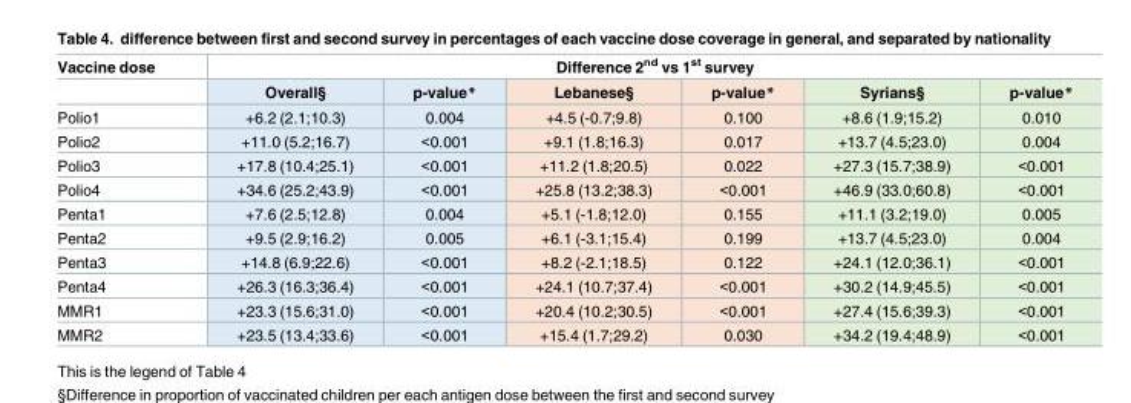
<table><thead><tr><td rowspan="2">Vaccine dose</td><td colspan="6">Difference 2<sup>nd</sup> vs 1<sup>st</sup> survey</td></tr><tr><td>Overall§</td><td>p-value*</td><td>Lebanese§</td><td>p-value*</td><td>Syrians§</td><td>p-value*</td></tr></thead><tbody><tr><td>Polio1</td><td>+6.2 (2.1;10.3)</td><td>0.004</td><td>+4.5 (-0.7;9.8)</td><td>0.100</td><td>+8.6 (1.9;15.2)</td><td>0.010</td></tr><tr><td>Polio2</td><td>+11.0 (5.2;16.7)</td><td>&lt;0.001</td><td>+9.1 (1.8;16.3)</td><td>0.017</td><td>+13.7 (4.5;23.0)</td><td>0.004</td></tr><tr><td>Polio3</td><td>+17.8 (10.4;25.1)</td><td>&lt;0.001</td><td>+11.2 (1.8;20.5)</td><td>0.022</td><td>+27.3 (15.7;38.9)</td><td>&lt;0.001</td></tr><tr><td>Polio4</td><td>+34.6 (25.2;43.9)</td><td>&lt;0.001</td><td>+25.8 (13.2;38.3)</td><td>&lt;0.001</td><td>+46.9 (33.0;60.8)</td><td>&lt;0.001</td></tr><tr><td>Penta1</td><td>+7.6 (2.5;12.8)</td><td>0.004</td><td>+5.1 (-1.8;12.0)</td><td>0.155</td><td>+11.1 (3.2;19.0)</td><td>0.005</td></tr><tr><td>Penta2</td><td>+9.5 (2.9;16.2)</td><td>0.005</td><td>+6.1 (-3.1;15.4)</td><td>0.199</td><td>+13.7 (4.5;23.0)</td><td>0.004</td></tr><tr><td>Penta3</td><td>+14.8 (6.9;22.6)</td><td>&lt;0.001</td><td>+8.2 (-2.1;18.5)</td><td>0.122</td><td>+24.1 (12.0;36.1)</td><td>&lt;0.001</td></tr><tr><td>Penta4</td><td>+26.3 (16.3;36.4)</td><td>&lt;0.001</td><td>+24.1 (10.7;37.4)</td><td>&lt;0.001</td><td>+30.2 (14.9;45.5)</td><td>&lt;0.001</td></tr><tr><td>MMR1</td><td>+23.3 (15.6;31.0)</td><td>&lt;0.001</td><td>+20.4 (10.2;30.5)</td><td>&lt;0.001</td><td>+27.4 (15.6;39.3)</td><td>&lt;0.001</td></tr><tr><td>MMR2</td><td>+23.5 (13.4;33.6)</td><td>&lt;0.001</td><td>+15.4 (1.7;29.2)</td><td>0.030</td><td>+34.2 (19.4;48.9)</td><td>&lt;0.001</td></tr></tbody></table>